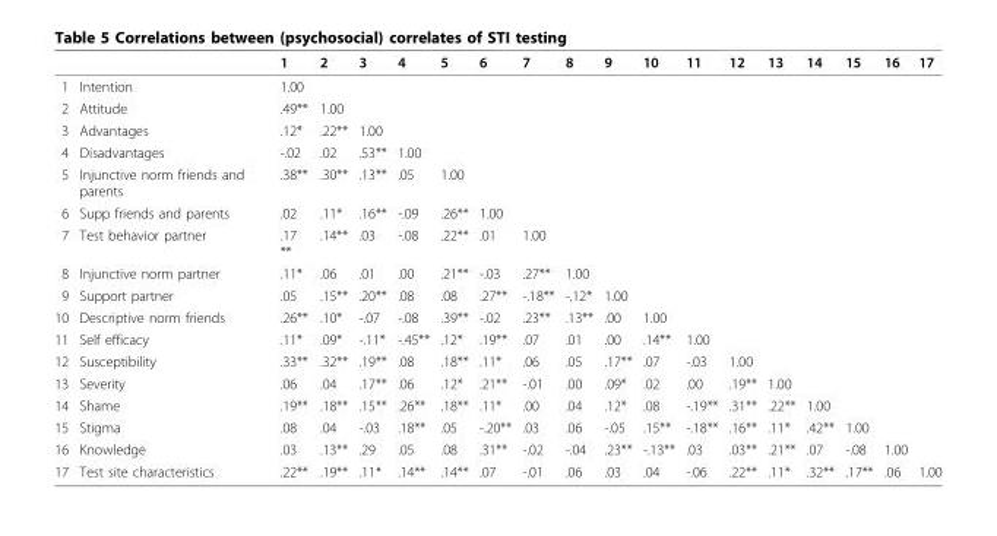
<table><thead><tr><td></td><td></td><td>1</td><td>2</td><td>3</td><td>4</td><td>5</td><td>6</td><td>7</td><td>8</td><td>9</td><td>10</td><td>11</td><td>12</td><td>13</td><td>14</td><td>15</td><td>16</td><td>17</td></tr></thead><tbody><tr><td>1</td><td>Intention</td><td>1.00</td><td></td><td></td><td></td><td></td><td></td><td></td><td></td><td></td><td></td><td></td><td></td><td></td><td></td><td></td><td></td><td></td></tr><tr><td>2</td><td>Attitude</td><td>.49**</td><td>1.00</td><td></td><td></td><td></td><td></td><td></td><td></td><td></td><td></td><td></td><td></td><td></td><td></td><td></td><td></td><td></td></tr><tr><td>3</td><td>Advantages</td><td>.12*</td><td>.22**</td><td>1.00</td><td></td><td></td><td></td><td></td><td></td><td></td><td></td><td></td><td></td><td></td><td></td><td></td><td></td><td></td></tr><tr><td>4</td><td>Disadvantages</td><td>-.02</td><td>.02</td><td>.53**</td><td>1.00</td><td></td><td></td><td></td><td></td><td></td><td></td><td></td><td></td><td></td><td></td><td></td><td></td><td></td></tr><tr><td>5</td><td>Injunctive norm friends and parents</td><td>.38**</td><td>.30**</td><td>.13**</td><td>.05</td><td>1.00</td><td></td><td></td><td></td><td></td><td></td><td></td><td></td><td></td><td></td><td></td><td></td><td></td></tr><tr><td>6</td><td>Supp friends and parents</td><td>.02</td><td>.11*</td><td>.16**</td><td>-.09</td><td>.26**</td><td>1.00</td><td></td><td></td><td></td><td></td><td></td><td></td><td></td><td></td><td></td><td></td><td></td></tr><tr><td>7</td><td>Test behavior partner</td><td>.17 **</td><td>.14**</td><td>.03</td><td>-.08</td><td>.22**</td><td>.01</td><td>1.00</td><td></td><td></td><td></td><td></td><td></td><td></td><td></td><td></td><td></td><td></td></tr><tr><td>8</td><td>Injunctive norm partner</td><td>.11*</td><td>.06</td><td>.01</td><td>.00</td><td>.21**</td><td>-.03</td><td>.27**</td><td>1.00</td><td></td><td></td><td></td><td></td><td></td><td></td><td></td><td></td><td></td></tr><tr><td>9</td><td>Support partner</td><td>.05</td><td>.15**</td><td>.20**</td><td>.08</td><td>.08</td><td>.27**</td><td>-.18**</td><td>-.12*</td><td>1.00</td><td></td><td></td><td></td><td></td><td></td><td></td><td></td><td></td></tr><tr><td>10</td><td>Descriptive norm friends</td><td>.26**</td><td>.10*</td><td>-.07</td><td>-.08</td><td>.39**</td><td>-.02</td><td>.23**</td><td>.13**</td><td>.00</td><td>1.00</td><td></td><td></td><td></td><td></td><td></td><td></td><td></td></tr><tr><td>11</td><td>Self efficacy</td><td>.11*</td><td>.09*</td><td>-.11*</td><td>-.45**</td><td>.12*</td><td>.19**</td><td>.07</td><td>.01</td><td>.00</td><td>.14**</td><td>1.00</td><td></td><td></td><td></td><td></td><td></td><td></td></tr><tr><td>12</td><td>Susceptibility</td><td>.33**</td><td>.32**</td><td>.19**</td><td>.08</td><td>.18**</td><td>.11*</td><td>.06</td><td>.05</td><td>.17**</td><td>.07</td><td>-.03</td><td>1.00</td><td></td><td></td><td></td><td></td><td></td></tr><tr><td>13</td><td>Severity</td><td>.06</td><td>.04</td><td>.17**</td><td>.06</td><td>.12*</td><td>.21**</td><td>-.01</td><td>.00</td><td>.09*</td><td>.02</td><td>.00</td><td>.19**</td><td>1.00</td><td></td><td></td><td></td><td></td></tr><tr><td>14</td><td>Shame</td><td>.19**</td><td>.18**</td><td>.15**</td><td>.26**</td><td>.18**</td><td>.11*</td><td>.00</td><td>.04</td><td>.12*</td><td>.08</td><td>-.19**</td><td>.31**</td><td>.22**</td><td>1.00</td><td></td><td></td><td></td></tr><tr><td>15</td><td>Stigma</td><td>.08</td><td>.04</td><td>-.03</td><td>.18**</td><td>.05</td><td>-.20**</td><td>.03</td><td>.06</td><td>-.05</td><td>.15**</td><td>-.18**</td><td>.16**</td><td>.11*</td><td>.42**</td><td>1.00</td><td></td><td></td></tr><tr><td>16</td><td>Knowledge</td><td>.03</td><td>.13**</td><td>.29</td><td>.05</td><td>.08</td><td>.31**</td><td>-.02</td><td>-.04</td><td>.23**</td><td>-.13**</td><td>.03</td><td>.03**</td><td>.21**</td><td>.07</td><td>-.08</td><td>1.00</td><td></td></tr><tr><td>17</td><td>Test site characteristics</td><td>.22**</td><td>.19**</td><td>.11*</td><td>.14**</td><td>.14**</td><td>.07</td><td>-.01</td><td>.06</td><td>.03</td><td>.04</td><td>-.06</td><td>.22**</td><td>.11*</td><td>.32**</td><td>.17**</td><td>.06</td><td>1.00</td></tr></tbody></table>